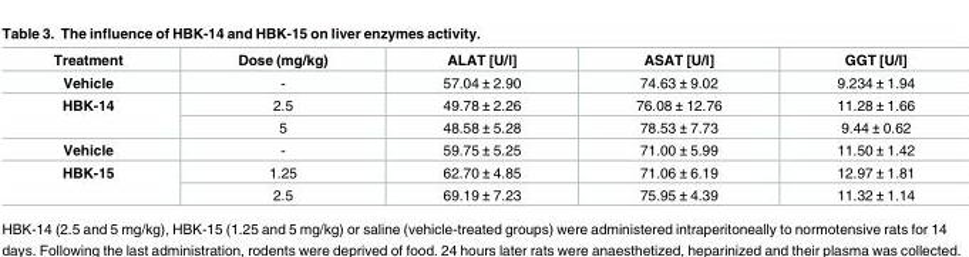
<table><thead><tr><td>Treatment</td><td>Dose (mg/kg)</td><td>ALAT [U/l]</td><td>ASAT [U/l]</td><td>GGT [U/l]</td></tr></thead><tbody><tr><td>Vehicle</td><td>-</td><td>57.04 ± 2.90</td><td>74.63 ± 9.02</td><td>9.234 ± 1.94</td></tr><tr><td rowspan="2">HBK-14</td><td>2.5</td><td>49.78 ± 2.26</td><td>76.08 ± 12.76</td><td>11.28 ± 1.66</td></tr><tr><td>5</td><td>48.58 ± 5.28</td><td>78.53 ± 7.73</td><td>9.44 ± 0.62</td></tr><tr><td>Vehicle</td><td>-</td><td>59.75 ± 5.25</td><td>71.00 ± 5.99</td><td>11.50 ± 1.42</td></tr><tr><td rowspan="2">HBK-15</td><td>1.25</td><td>62.70 ± 4.85</td><td>71.06 ± 6.19</td><td>12.97 ± 1.81</td></tr><tr><td>2.5</td><td>69.19 ± 7.23</td><td>75.95 ± 4.39</td><td>11.32 ± 1.14</td></tr></tbody></table>